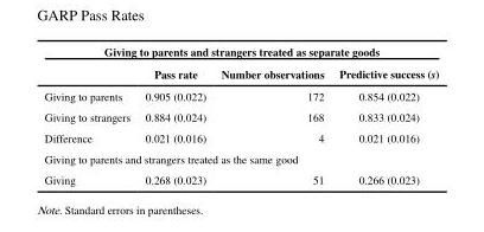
<table><thead><tr><td colspan="4">Giving to parents and strangers treated as separate goods</td></tr><tr><td></td><td>Pass rate</td><td>Number observations</td><td>Predictive success (s)</td></tr></thead><tbody><tr><td>Giving to parents</td><td>0.905 (0.022)</td><td>172</td><td>0.854 (0.022)</td></tr><tr><td>Giving to strangers</td><td>0.884 (0.024)</td><td>168</td><td>0.833 (0.024)</td></tr><tr><td>Difference</td><td>0.021 (0.016)</td><td>4</td><td>0.021 (0.016)</td></tr><tr><td colspan="4">Giving to parents and strangers treated as the same good</td></tr><tr><td>Giving</td><td>0.268 (0.023)</td><td>51</td><td>0.266 (0.023)</td></tr></tbody></table>